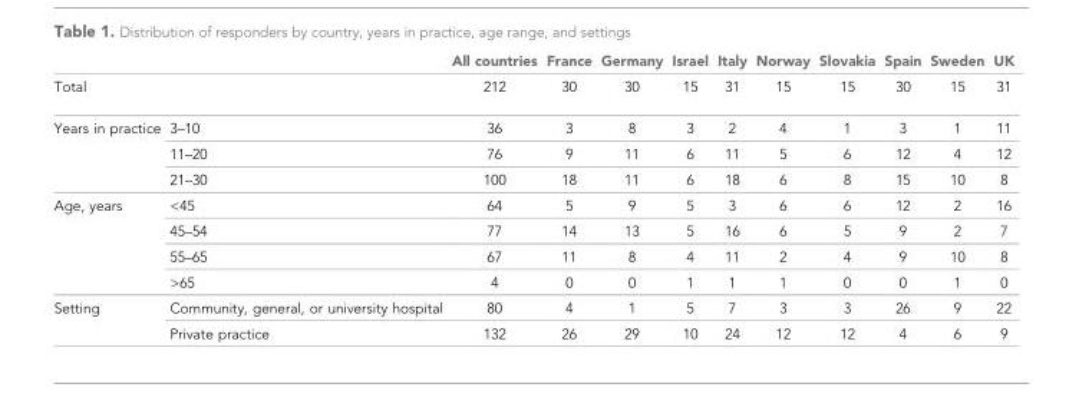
<table><thead><tr><td></td><td></td><td>All countries</td><td>France</td><td>Germany</td><td>Israel</td><td>Italy</td><td>Norway</td><td>Slovakia</td><td>Spain</td><td>Sweden</td><td>UK</td></tr></thead><tbody><tr><td>Total</td><td></td><td>212</td><td>30</td><td>30</td><td>15</td><td>31</td><td>15</td><td>15</td><td>30</td><td>15</td><td>31</td></tr><tr><td rowspan="3">Years in practice</td><td>3–10</td><td>36</td><td>3</td><td>8</td><td>3</td><td>2</td><td>4</td><td>1</td><td>3</td><td>1</td><td>11</td></tr><tr><td>11–20</td><td>76</td><td>9</td><td>11</td><td>6</td><td>11</td><td>5</td><td>6</td><td>12</td><td>4</td><td>12</td></tr><tr><td>21–30</td><td>100</td><td>18</td><td>11</td><td>6</td><td>18</td><td>6</td><td>8</td><td>15</td><td>10</td><td>8</td></tr><tr><td rowspan="4">Age, years</td><td>&lt;45</td><td>64</td><td>5</td><td>9</td><td>5</td><td>3</td><td>6</td><td>6</td><td>12</td><td>2</td><td>16</td></tr><tr><td>45–54</td><td>77</td><td>14</td><td>13</td><td>5</td><td>16</td><td>6</td><td>5</td><td>9</td><td>2</td><td>7</td></tr><tr><td>55–65</td><td>67</td><td>11</td><td>8</td><td>4</td><td>11</td><td>2</td><td>4</td><td>9</td><td>10</td><td>8</td></tr><tr><td>&gt;65</td><td>4</td><td>0</td><td>0</td><td>1</td><td>1</td><td>1</td><td>0</td><td>0</td><td>1</td><td>0</td></tr><tr><td rowspan="2">Setting</td><td>Community, general, or university hospital</td><td>80</td><td>4</td><td>1</td><td>5</td><td>7</td><td>3</td><td>3</td><td>26</td><td>9</td><td>22</td></tr><tr><td>Private practice</td><td>132</td><td>26</td><td>29</td><td>10</td><td>24</td><td>12</td><td>12</td><td>4</td><td>6</td><td>9</td></tr></tbody></table>